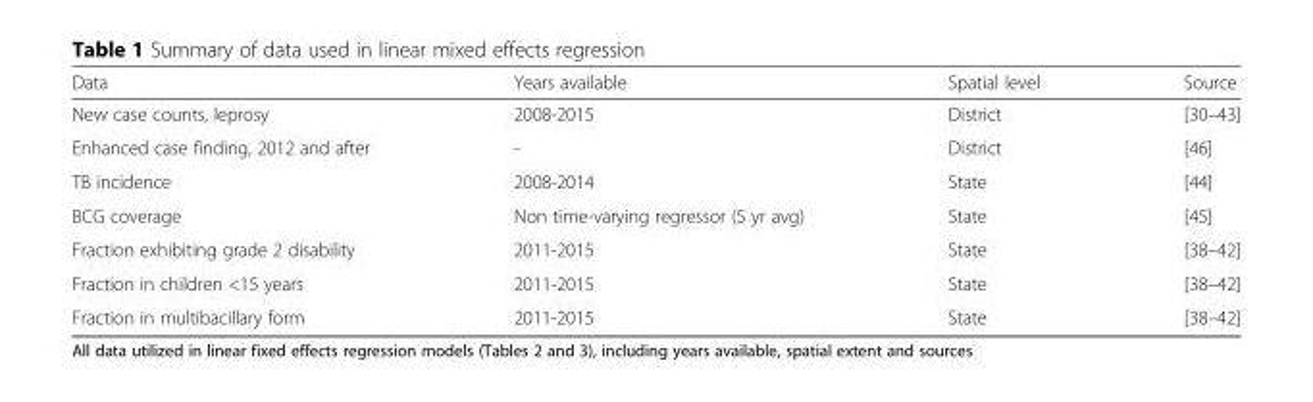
<table><thead><tr><td>Data</td><td>Years available</td><td>Spatial level</td><td>Source</td></tr></thead><tbody><tr><td>New case counts, leprosy</td><td>2008-2015</td><td>District</td><td>[30–43]</td></tr><tr><td>Enhanced case finding, 2012 and after</td><td>-</td><td>District</td><td>[46]</td></tr><tr><td>TB incidence</td><td>2008-2014</td><td>State</td><td>[44]</td></tr><tr><td>BCG coverage</td><td>Non time-varying regressor (5 yr avg)</td><td>State</td><td>[45]</td></tr><tr><td>Fraction exhibiting grade 2 disability</td><td>2011-2015</td><td>State</td><td>[38–42]</td></tr><tr><td>Fraction in children &lt;15 years</td><td>2011-2015</td><td>State</td><td>[38–42]</td></tr><tr><td>Fraction in multibacillary form</td><td>2011-2015</td><td>State</td><td>[38–42]</td></tr></tbody></table>